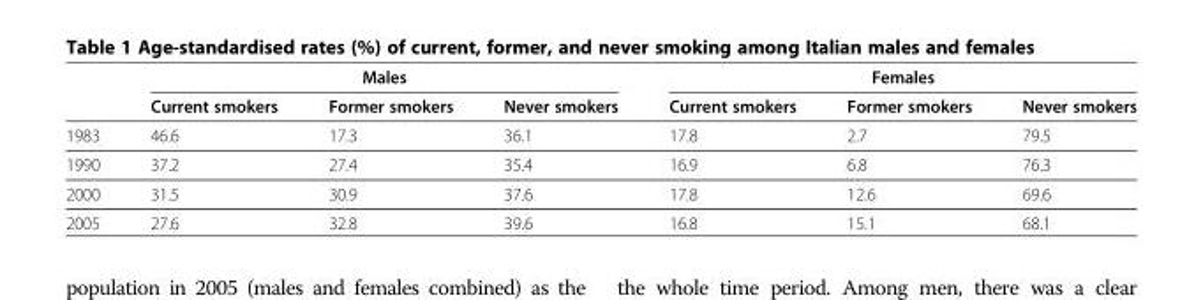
<table><thead><tr><td rowspan="2"></td><td colspan="3">Males</td><td colspan="3">Females</td></tr><tr><td>Current smokers</td><td>Former smokers</td><td>Never smokers</td><td>Current smokers</td><td>Former smokers</td><td>Never smokers</td></tr></thead><tbody><tr><td>1983</td><td>46.6</td><td>17.3</td><td>36.1</td><td>17.8</td><td>2.7</td><td>79.5</td></tr><tr><td>1990</td><td>37.2</td><td>27.4</td><td>35.4</td><td>16.9</td><td>6.8</td><td>76.3</td></tr><tr><td>2000</td><td>31.5</td><td>30.9</td><td>37.6</td><td>17.8</td><td>12.6</td><td>69.6</td></tr><tr><td>2005</td><td>27.6</td><td>32.8</td><td>39.6</td><td>16.8</td><td>15.1</td><td>68.1</td></tr></tbody></table>